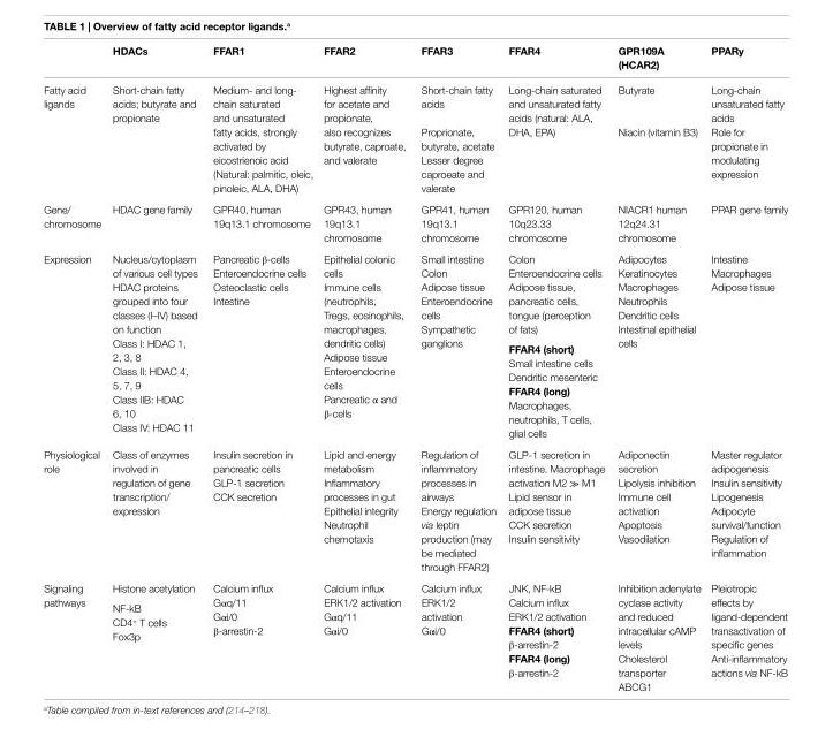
<table><thead><tr><td></td><td>HDACs</td><td>FFAR1</td><td>FFAR2</td><td>FFAR3</td><td>FFAR4</td><td>GPR109A (HCAR2)</td><td>PPARy</td></tr></thead><tbody><tr><td rowspan="3">Fatty acid ligands</td><td rowspan="3">Short-chain fatty acids; butyrate and propionate</td><td rowspan="3">Medium- and long- chain saturated and unsaturated fatty acids, strongly activated by eicostrienoic acid (Natural: palmitic, oleic, pinoleic, ALA, DHA)</td><td rowspan="3">Highest affinity for acetate and propionate, also recognizes butyrate, caproate, and valerate</td><td>Short-chain fatty acids</td><td rowspan="3">Long-chain saturated and unsaturated fatty acids (natural: ALA, DHA, EPA)</td><td>Butyrate</td><td>Long-chain unsaturated fatty acids</td></tr><tr><td>Proprionate, butyrate, acetate</td><td rowspan="2">Niacin (vitamin B3)</td><td rowspan="2">Role for propionate in modulating expression</td></tr><tr><td>Lesser degree caproeate and valerate</td></tr><tr><td>Gene/ chromosome</td><td>HDAC gene family</td><td>GPR40, human 19q13.1 chromosome</td><td>GPR43, human 19q13.1 chromosome</td><td>GPR41, human 19q13.1 chromosome</td><td>GPR120, human 10q23.33 chromosome</td><td>NIACR1 human 12q24.31 chromosome</td><td>PPAR gene family</td></tr><tr><td>Expression</td><td>Nucleus/cytoplasm of various cell types HDAC proteins grouped into four classes (I–IV) based on function Class I: HDAC 1, 2, 3, 8 Class II: HDAC 4, 5, 7, 9 Class IIB: HDAC 6, 10 Class IV: HDAC 11</td><td>Pancreatic β-cells Enteroendocrine cells Osteoclastic cells Intestine</td><td>Epithelial colonic cells Immune cells (neutrophils, Tregs, eosinophils, macrophages, dendritic cells) Adipose tissue Enteroendocrine cells Pancreatic α and β-cells</td><td>Small intestine Colon Adipose tissue Enteroendocrine cells Sympathetic ganglions</td><td>Colon Enteroendocrine cells Adipose tissue, pancreatic cells, tongue (perception of fats) FFAR4 (short) Small intestine cells Dendritic mesenteric FFAR4 (long) Macrophages, neutrophils, T cells, glial cells</td><td>Adipocytes Keratinocytes Macrophages Neutrophils Dendritic cells Intestinal epithelial cells</td><td>Intestine Macrophages Adipose tissue</td></tr><tr><td>Physiological role</td><td>Class of enzymes involved in regulation of gene transcription/ expression</td><td>Insulin secretion in pancreatic cells GLP-1 secretion CCK secretion</td><td>Lipid and energy metabolism Inflammatory processes in gut Epithelial integrity Neutrophil chemotaxis</td><td>Regulation of inflammatory processes in airways Energy regulation via leptin production (may be mediated through FFAR2)</td><td>GLP-1 secretion in intestine. Macrophage activation M2 ≫ M1 Lipid sensor in adipose tissue CCK secretion Insulin sensitivity</td><td>Adiponectin secretion Lipolysis inhibition Immune cell activation Apoptosis Vasodilation</td><td>Master regulator adipogenesis Insulin sensitivity Lipogenesis Adipocyte survival/function Regulation of inflammation</td></tr><tr><td>Signaling pathways</td><td>Histone acetylation NF-kB CD4<sup>+</sup> T cells Fox3p</td><td>Calcium influx Gαq/11 Gαi/0 β-arrestin-2</td><td>Calcium influx ERK1/2 activation Gαq/11 Gαi/0</td><td>Calcium influx ERK1/2 activation Gαi/0</td><td>JNK, NF-kB Calcium influx ERK1/2 activation FFAR4 (short) β-arrestin-2 FFAR4 (long) β-arrestin-2</td><td>Inhibition adenylate cyclase activity and reduced intracellular cAMP levels Cholesterol transporter ABCG1</td><td>Pleiotropic effects by ligand-dependent transactivation of specific genes Anti-inflammatory actions via NF-kB</td></tr></tbody></table>